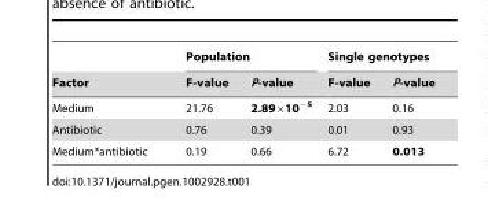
<table><thead><tr><td rowspan="2">Factor</td><td colspan="2">Population</td><td colspan="2">Single genotypes</td></tr><tr><td>F-value</td><td>P-value</td><td>F-value</td><td>P-value</td></tr></thead><tbody><tr><td>Medium</td><td>21.76</td><td>2.89×10<sup>−5</sup></td><td>2.03</td><td>0.16</td></tr><tr><td>Antibiotic</td><td>0.76</td><td>0.39</td><td>0.01</td><td>0.93</td></tr><tr><td>Medium*antibiotic</td><td>0.19</td><td>0.66</td><td>6.72</td><td>0.013</td></tr></tbody></table>